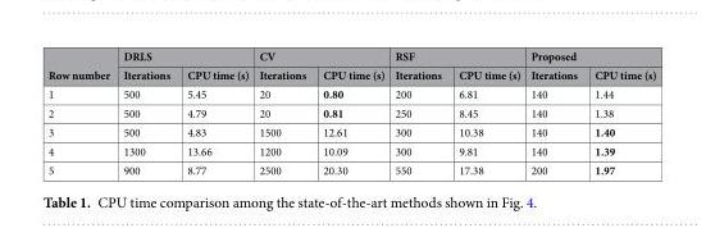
<table><thead><tr><td rowspan="2">Row number</td><td colspan="2">DRLS</td><td colspan="2">CV</td><td colspan="2">RSF</td><td colspan="2">Proposed</td></tr><tr><td>Iterations</td><td>CPU time (s)</td><td>Iterations</td><td>CPU time (s)</td><td>Iterations</td><td>CPU time (s)</td><td>Iterations</td><td>CPU time (s)</td></tr></thead><tbody><tr><td>1</td><td>500</td><td>5.45</td><td>20</td><td>0.80</td><td>200</td><td>6.81</td><td>140</td><td>1.44</td></tr><tr><td>2</td><td>500</td><td>4.79</td><td>20</td><td>0.81</td><td>250</td><td>8.45</td><td>140</td><td>1.38</td></tr><tr><td>3</td><td>500</td><td>4.83</td><td>1500</td><td>12.61</td><td>300</td><td>10.38</td><td>140</td><td>1.40</td></tr><tr><td>4</td><td>1300</td><td>13.66</td><td>1200</td><td>10.09</td><td>300</td><td>9.81</td><td>140</td><td>1.39</td></tr><tr><td>5</td><td>900</td><td>8.77</td><td>2500</td><td>20.30</td><td>550</td><td>17.38</td><td>200</td><td>1.97</td></tr></tbody></table>